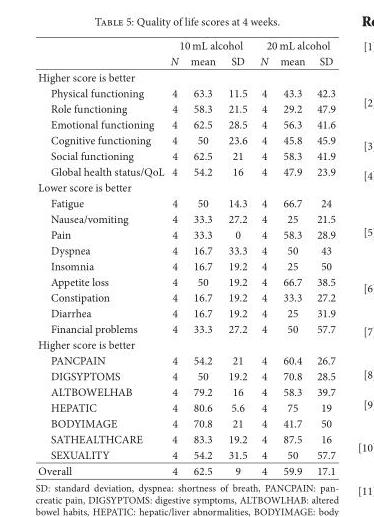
<table><thead><tr><td rowspan="2"></td><td colspan="3">10 mL alcohol</td><td colspan="3">20 mL alcohol</td></tr><tr><td>N</td><td>mean</td><td>SD</td><td>N</td><td>mean</td><td>SD</td></tr></thead><tbody><tr><td colspan="7">Higher score is better</td></tr><tr><td>Physical functioning</td><td>4</td><td>63.3</td><td>11.5</td><td>4</td><td>43.3</td><td>42.3</td></tr><tr><td>Role functioning</td><td>4</td><td>58.3</td><td>21.5</td><td>4</td><td>29.2</td><td>47.9</td></tr><tr><td>Emotional functioning</td><td>4</td><td>62.5</td><td>28.5</td><td>4</td><td>56.3</td><td>41.6</td></tr><tr><td>Cognitive functioning</td><td>4</td><td>50</td><td>23.6</td><td>4</td><td>45.8</td><td>45.9</td></tr><tr><td>Social functioning</td><td>4</td><td>62.5</td><td>21</td><td>4</td><td>58.3</td><td>41.9</td></tr><tr><td>Global health status/QoL</td><td>4</td><td>54.2</td><td>16</td><td>4</td><td>47.9</td><td>23.9</td></tr><tr><td colspan="7">Lower score is better</td></tr><tr><td>Fatigue</td><td>4</td><td>50</td><td>14.3</td><td>4</td><td>66.7</td><td>24</td></tr><tr><td>Nausea/vomiting</td><td>4</td><td>33.3</td><td>27.2</td><td>4</td><td>25</td><td>21.5</td></tr><tr><td>Pain</td><td>4</td><td>33.3</td><td>0</td><td>4</td><td>58.3</td><td>28.9</td></tr><tr><td>Dyspnea</td><td>4</td><td>16.7</td><td>33.3</td><td>4</td><td>50</td><td>43</td></tr><tr><td>Insomnia</td><td>4</td><td>16.7</td><td>19.2</td><td>4</td><td>25</td><td>50</td></tr><tr><td>Appetite loss</td><td>4</td><td>50</td><td>19.2</td><td>4</td><td>66.7</td><td>38.5</td></tr><tr><td>Constipation</td><td>4</td><td>16.7</td><td>19.2</td><td>4</td><td>33.3</td><td>27.2</td></tr><tr><td>Diarrhea</td><td>4</td><td>16.7</td><td>19.2</td><td>4</td><td>25</td><td>31.9</td></tr><tr><td>Financial problems</td><td>4</td><td>33.3</td><td>27.2</td><td>4</td><td>50</td><td>57.7</td></tr><tr><td colspan="7">Higher score is better</td></tr><tr><td>PANCPAIN</td><td>4</td><td>54.2</td><td>21</td><td>4</td><td>60.4</td><td>26.7</td></tr><tr><td>DIGSYPTOMS</td><td>4</td><td>50</td><td>19.2</td><td>4</td><td>70.8</td><td>28.5</td></tr><tr><td>ALTBOWELHAB</td><td>4</td><td>79.2</td><td>16</td><td>4</td><td>58.3</td><td>39.7</td></tr><tr><td>HEPATIC</td><td>4</td><td>80.6</td><td>5.6</td><td>4</td><td>75</td><td>19</td></tr><tr><td>BODYIMAGE</td><td>4</td><td>70.8</td><td>21</td><td>4</td><td>41.7</td><td>50</td></tr><tr><td>SATHEALTHCARE</td><td>4</td><td>83.3</td><td>19.2</td><td>4</td><td>87.5</td><td>16</td></tr><tr><td>SEXUALITY</td><td>4</td><td>54.2</td><td>31.5</td><td>4</td><td>50</td><td>57.7</td></tr><tr><td>Overall</td><td>4</td><td>62.5</td><td>9</td><td>4</td><td>59.9</td><td>17.1</td></tr></tbody></table>